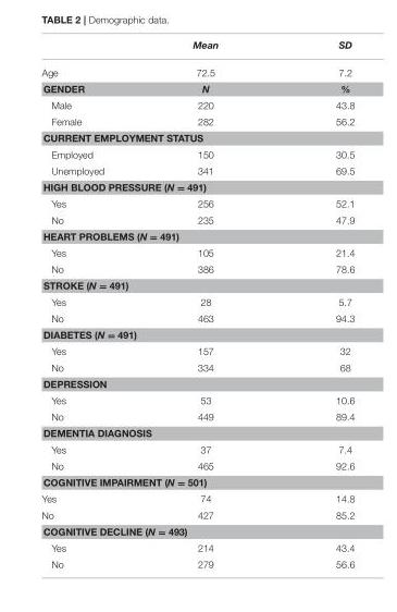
<table><thead><tr><td></td><td>Mean</td><td>SD</td></tr></thead><tbody><tr><td>Age</td><td>72.5</td><td>7.2</td></tr><tr><td>GENDER</td><td>N</td><td>%</td></tr><tr><td>Male</td><td>220</td><td>43.8</td></tr><tr><td>Female</td><td>282</td><td>56.2</td></tr><tr><td colspan="3">CURRENT EMPLOYMENT STATUS</td></tr><tr><td>Employed</td><td>150</td><td>30.5</td></tr><tr><td>Unemployed</td><td>341</td><td>69.5</td></tr><tr><td colspan="3">HIGH BLOOD PRESSURE (N = 491)</td></tr><tr><td>Yes</td><td>256</td><td>52.1</td></tr><tr><td>No</td><td>235</td><td>47.9</td></tr><tr><td colspan="3">HEART PROBLEMS (N = 491)</td></tr><tr><td>Yes</td><td>105</td><td>21.4</td></tr><tr><td>No</td><td>386</td><td>78.6</td></tr><tr><td colspan="3">STROKE (N = 491)</td></tr><tr><td>Yes</td><td>28</td><td>5.7</td></tr><tr><td>No</td><td>463</td><td>94.3</td></tr><tr><td colspan="3">DIABETES (N = 491)</td></tr><tr><td>Yes</td><td>157</td><td>32</td></tr><tr><td>No</td><td>334</td><td>68</td></tr><tr><td colspan="3">DEPRESSION</td></tr><tr><td>Yes</td><td>53</td><td>10.6</td></tr><tr><td>No</td><td>449</td><td>89.4</td></tr><tr><td colspan="3">DEMENTIA DIAGNOSIS</td></tr><tr><td>Yes</td><td>37</td><td>7.4</td></tr><tr><td>No</td><td>465</td><td>92.6</td></tr><tr><td colspan="3">COGNITIVE IMPAIRMENT (N = 501)</td></tr><tr><td>Yes</td><td>74</td><td>14.8</td></tr><tr><td>No</td><td>427</td><td>85.2</td></tr><tr><td colspan="3">COGNITIVE DECLINE (N = 493)</td></tr><tr><td>Yes</td><td>214</td><td>43.4</td></tr><tr><td>No</td><td>279</td><td>56.6</td></tr></tbody></table>